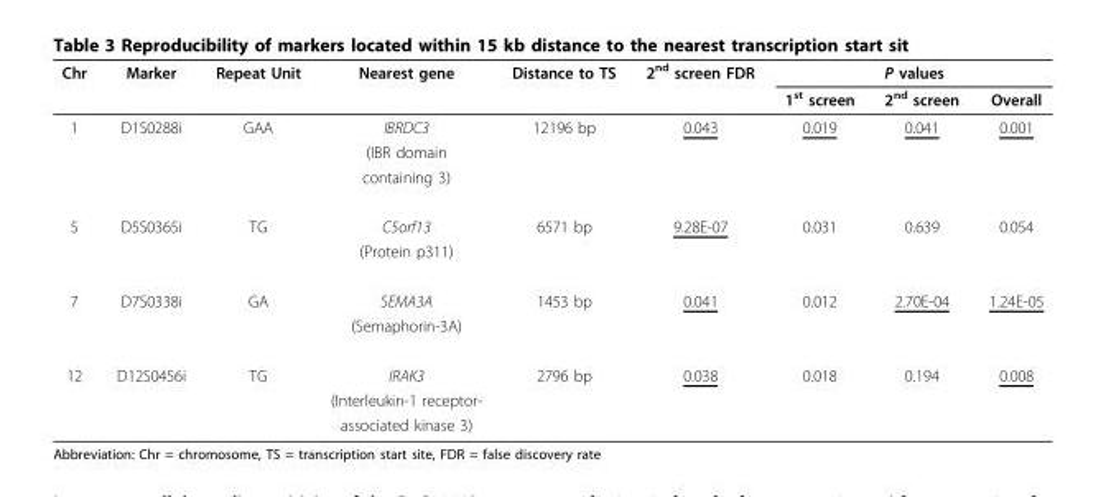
<table><thead><tr><td rowspan="2">Chr</td><td rowspan="2">Marker</td><td rowspan="2">Repeat Unit</td><td rowspan="2">Nearest gene</td><td rowspan="2">Distance to TS</td><td rowspan="2">2<sup>nd</sup> screen FDR</td><td colspan="3">P values</td></tr><tr><td>1<sup>st</sup> screen</td><td>2<sup>nd</sup> screen</td><td>Overall</td></tr></thead><tbody><tr><td rowspan="3">1</td><td>D1S0288i</td><td>GAA</td><td>IBRDC3</td><td>12196 bp</td><td>0.043</td><td>0.019</td><td>0.041</td><td>0.001</td></tr><tr><td></td><td></td><td>(IBR domain</td><td></td><td></td><td></td><td></td><td></td></tr><tr><td></td><td></td><td>containing 3)</td><td></td><td></td><td></td><td></td><td></td></tr><tr><td rowspan="2">5</td><td>D5S0365i</td><td>TG</td><td>C5orf13</td><td>6571 bp</td><td>9.28E-07</td><td>0.031</td><td>0.639</td><td>0.054</td></tr><tr><td></td><td></td><td>(Protein p311)</td><td></td><td></td><td></td><td></td><td></td></tr><tr><td rowspan="2">7</td><td>D7S0338i</td><td>GA</td><td>SEMA3A</td><td>1453 bp</td><td>0.041</td><td>0.012</td><td>2.70E-04</td><td>1.24E-05</td></tr><tr><td></td><td></td><td>(Semaphorin-3A)</td><td></td><td></td><td></td><td></td><td></td></tr><tr><td rowspan="3">12</td><td>D12S0456i</td><td>TG</td><td>IRAK3</td><td>2796 bp</td><td>0.038</td><td>0.018</td><td>0.194</td><td>0.008</td></tr><tr><td></td><td></td><td>(Interleukin-1 receptor-</td><td></td><td></td><td></td><td></td><td></td></tr><tr><td></td><td></td><td>associated kinase 3)</td><td></td><td></td><td></td><td></td><td></td></tr></tbody></table>